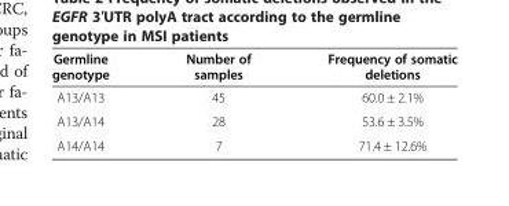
<table><thead><tr><td>Germline genotype</td><td>Number of samples</td><td>Frequency of somatic deletions</td></tr></thead><tbody><tr><td>A13/A13</td><td>45</td><td>60.0 ± 2.1%</td></tr><tr><td>A13/A14</td><td>28</td><td>53.6 ± 3.5%</td></tr><tr><td>A14/A14</td><td>7</td><td>71.4 ± 12.6%</td></tr></tbody></table>